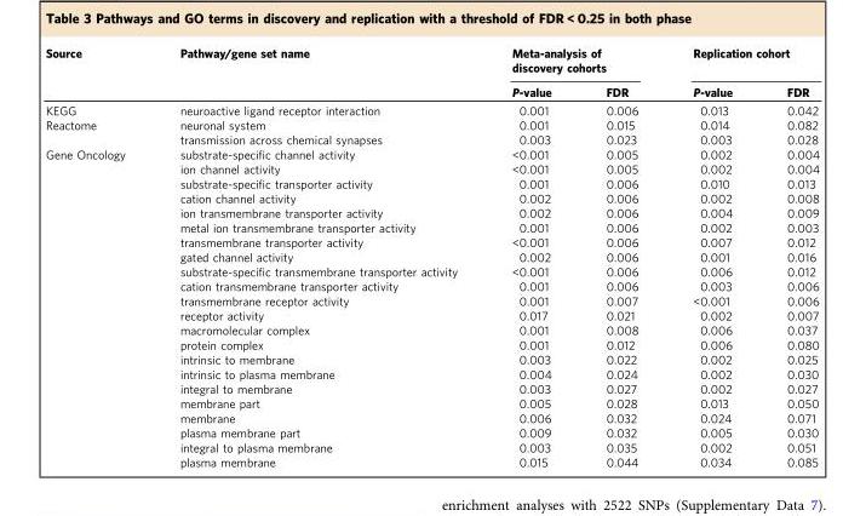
<table><thead><tr><td rowspan="2">Source</td><td rowspan="2">Pathway/gene set name</td><td colspan="2">Meta-analysis of discovery cohorts</td><td colspan="2">Replication cohort</td></tr><tr><td>P-value</td><td>FDR</td><td>P-value</td><td>FDR</td></tr></thead><tbody><tr><td>KEGG</td><td>neuroactive ligand receptor interaction</td><td>0.001</td><td>0.006</td><td>0.013</td><td>0.042</td></tr><tr><td rowspan="2">Reactome</td><td>neuronal system</td><td>0.001</td><td>0.015</td><td>0.014</td><td>0.082</td></tr><tr><td>transmission across chemical synapses</td><td>0.003</td><td>0.023</td><td>0.003</td><td>0.028</td></tr><tr><td rowspan="22">Gene Oncology</td><td>substrate-specific channel activity</td><td>&lt;0.001</td><td>0.005</td><td>0.002</td><td>0.004</td></tr><tr><td>ion channel activity</td><td>&lt;0.001</td><td>0.005</td><td>0.002</td><td>0.004</td></tr><tr><td>substrate-specific transporter activity</td><td>0.001</td><td>0.006</td><td>0.010</td><td>0.013</td></tr><tr><td>cation channel activity</td><td>0.002</td><td>0.006</td><td>0.002</td><td>0.008</td></tr><tr><td>ion transmembrane transporter activity</td><td>0.002</td><td>0.006</td><td>0.004</td><td>0.009</td></tr><tr><td>metal ion transmembrane transporter activity</td><td>0.001</td><td>0.006</td><td>0.002</td><td>0.003</td></tr><tr><td>transmembrane transporter activity</td><td>&lt;0.001</td><td>0.006</td><td>0.007</td><td>0.012</td></tr><tr><td>gated channel activity</td><td>0.002</td><td>0.006</td><td>0.001</td><td>0.016</td></tr><tr><td>substrate-specific transmembrane transporter activity</td><td>&lt;0.001</td><td>0.006</td><td>0.006</td><td>0.012</td></tr><tr><td>cation transmembrane transporter activity</td><td>0.001</td><td>0.006</td><td>0.003</td><td>0.006</td></tr><tr><td>transmembrane receptor activity</td><td>0.001</td><td>0.007</td><td>&lt;0.001</td><td>0.006</td></tr><tr><td>receptor activity</td><td>0.017</td><td>0.021</td><td>0.002</td><td>0.007</td></tr><tr><td>macromolecular complex</td><td>0.001</td><td>0.008</td><td>0.006</td><td>0.037</td></tr><tr><td>protein complex</td><td>0.001</td><td>0.012</td><td>0.006</td><td>0.080</td></tr><tr><td>intrinsic to membrane</td><td>0.003</td><td>0.022</td><td>0.002</td><td>0.025</td></tr><tr><td>intrinsic to plasma membrane</td><td>0.004</td><td>0.024</td><td>0.002</td><td>0.030</td></tr><tr><td>integral to membrane</td><td>0.003</td><td>0.027</td><td>0.002</td><td>0.027</td></tr><tr><td>membrane part</td><td>0.005</td><td>0.028</td><td>0.013</td><td>0.050</td></tr><tr><td>membrane</td><td>0.006</td><td>0.032</td><td>0.024</td><td>0.071</td></tr><tr><td>plasma membrane part</td><td>0.009</td><td>0.032</td><td>0.005</td><td>0.030</td></tr><tr><td>integral to plasma membrane</td><td>0.003</td><td>0.035</td><td>0.002</td><td>0.051</td></tr><tr><td>plasma membrane</td><td>0.015</td><td>0.044</td><td>0.034</td><td>0.085</td></tr></tbody></table>